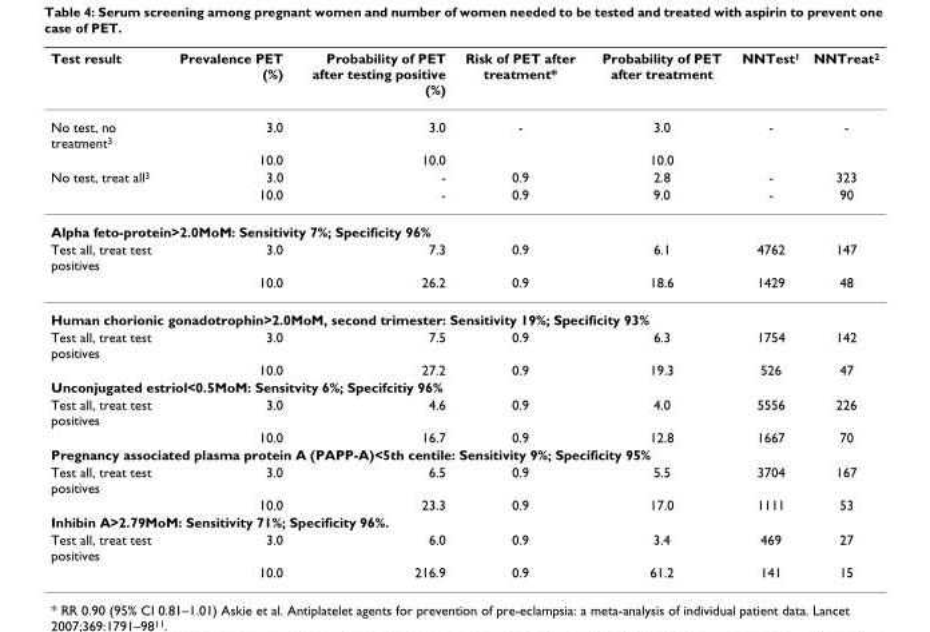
<table><thead><tr><td>Test result</td><td>Prevalence PET (%)</td><td>Probability of PET after testing positive (%)</td><td>Risk of PET after treatment*</td><td>Probability of PET after treatment</td><td>NNTest<sup>1</sup></td><td>NNTreat<sup>2</sup></td></tr></thead><tbody><tr><td rowspan="2">No test, no treatment<sup>3</sup></td><td>3.0</td><td>3.0</td><td>-</td><td>3.0</td><td>-</td><td>-</td></tr><tr><td>10.0</td><td>10.0</td><td></td><td>10.0</td><td></td><td></td></tr><tr><td rowspan="2">No test, treat all<sup>3</sup></td><td>3.0</td><td>-</td><td>0.9</td><td>2.8</td><td>-</td><td>323</td></tr><tr><td>10.0</td><td>-</td><td>0.9</td><td>9.0</td><td>-</td><td>90</td></tr><tr><td colspan="7">Alpha feto-protein&gt;2.0MoM: Sensitivity 7%; Specificity 96%</td></tr><tr><td rowspan="2">Test all, treat test positives</td><td>3.0</td><td>7.3</td><td>0.9</td><td>6.1</td><td>4762</td><td>147</td></tr><tr><td>10.0</td><td>26.2</td><td>0.9</td><td>18.6</td><td>1429</td><td>48</td></tr><tr><td colspan="7">Human chorionic gonadotrophin&gt;2.0MoM, second trimester: Sensitivity 19%; Specificity 93%</td></tr><tr><td rowspan="2">Test all, treat test positives</td><td>3.0</td><td>7.5</td><td>0.9</td><td>6.3</td><td>1754</td><td>142</td></tr><tr><td>10.0</td><td>27.2</td><td>0.9</td><td>19.3</td><td>526</td><td>47</td></tr><tr><td colspan="7">Unconjugated estriol&lt;0.5MoM: Sensitvity 6%; Specifcitiy 96%</td></tr><tr><td rowspan="2">Test all, treat test positives</td><td>3.0</td><td>4.6</td><td>0.9</td><td>4.0</td><td>5556</td><td>226</td></tr><tr><td>10.0</td><td>16.7</td><td>0.9</td><td>12.8</td><td>1667</td><td>70</td></tr><tr><td colspan="7">Pregnancy associated plasma protein A (PAPP-A)&lt;5th centile: Sensitivity 9%; Specificity 95%</td></tr><tr><td rowspan="2">Test all, treat test positives</td><td>3.0</td><td>6.5</td><td>0.9</td><td>5.5</td><td>3704</td><td>167</td></tr><tr><td>10.0</td><td>23.3</td><td>0.9</td><td>17.0</td><td>1111</td><td>53</td></tr><tr><td colspan="7">Inhibin A&gt;2.79MoM: Sensitivity 71%; Specificity 96%.</td></tr><tr><td rowspan="2">Test all, treat test positives</td><td>3.0</td><td>6.0</td><td>0.9</td><td>3.4</td><td>469</td><td>27</td></tr><tr><td>10.0</td><td>216.9</td><td>0.9</td><td>61.2</td><td>141</td><td>15</td></tr></tbody></table>